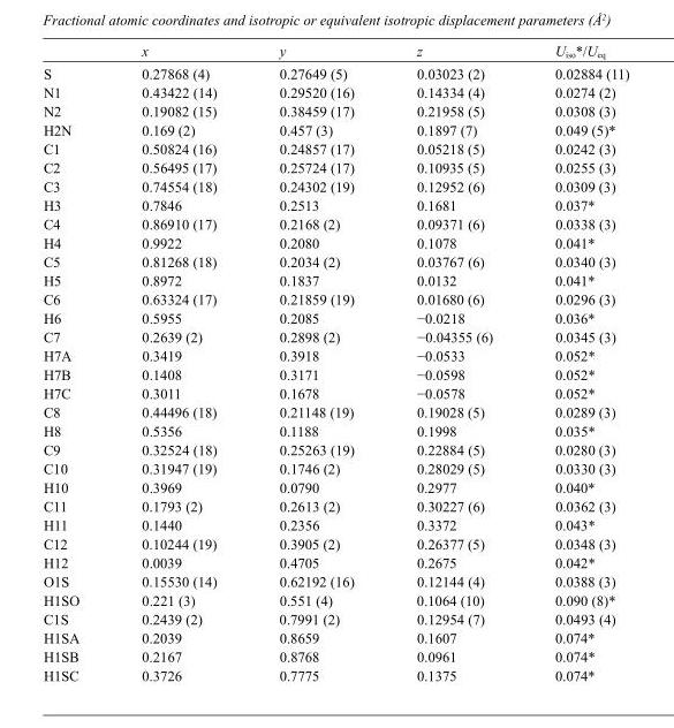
<table><thead><tr><td></td><td>x</td><td>y</td><td>z</td><td>U<sub>iso</sub>*/U<sub>eq</sub></td></tr></thead><tbody><tr><td>S</td><td>0.27868 (4)</td><td>0.27649 (5)</td><td>0.03023 (2)</td><td>0.02884 (11)</td></tr><tr><td>N1</td><td>0.43422 (14)</td><td>0.29520 (16)</td><td>0.14334 (4)</td><td>0.0274 (2)</td></tr><tr><td>N2</td><td>0.19082 (15)</td><td>0.38459 (17)</td><td>0.21958 (5)</td><td>0.0308 (3)</td></tr><tr><td>H2N</td><td>0.169 (2)</td><td>0.457 (3)</td><td>0.1897 (7)</td><td>0.049 (5)*</td></tr><tr><td>C1</td><td>0.50824 (16)</td><td>0.24857 (17)</td><td>0.05218 (5)</td><td>0.0242 (3)</td></tr><tr><td>C2</td><td>0.56495 (17)</td><td>0.25724 (17)</td><td>0.10935 (5)</td><td>0.0255 (3)</td></tr><tr><td>C3</td><td>0.74554 (18)</td><td>0.24302 (19)</td><td>0.12952 (6)</td><td>0.0309 (3)</td></tr><tr><td>H3</td><td>0.7846</td><td>0.2513</td><td>0.1681</td><td>0.037*</td></tr><tr><td>C4</td><td>0.86910 (17)</td><td>0.2168 (2)</td><td>0.09371 (6)</td><td>0.0338 (3)</td></tr><tr><td>H4</td><td>0.9922</td><td>0.2080</td><td>0.1078</td><td>0.041*</td></tr><tr><td>C5</td><td>0.81268 (18)</td><td>0.2034 (2)</td><td>0.03767 (6)</td><td>0.0340 (3)</td></tr><tr><td>H5</td><td>0.8972</td><td>0.1837</td><td>0.0132</td><td>0.041*</td></tr><tr><td>C6</td><td>0.63324 (17)</td><td>0.21859 (19)</td><td>0.01680 (6)</td><td>0.0296 (3)</td></tr><tr><td>H6</td><td>0.5955</td><td>0.2085</td><td>−0.0218</td><td>0.036*</td></tr><tr><td>C7</td><td>0.2639 (2)</td><td>0.2898 (2)</td><td>−0.04355 (6)</td><td>0.0345 (3)</td></tr><tr><td>H7A</td><td>0.3419</td><td>0.3918</td><td>−0.0533</td><td>0.052*</td></tr><tr><td>H7B</td><td>0.1408</td><td>0.3171</td><td>−0.0598</td><td>0.052*</td></tr><tr><td>H7C</td><td>0.3011</td><td>0.1678</td><td>−0.0578</td><td>0.052*</td></tr><tr><td>C8</td><td>0.44496 (18)</td><td>0.21148 (19)</td><td>0.19028 (5)</td><td>0.0289 (3)</td></tr><tr><td>H8</td><td>0.5356</td><td>0.1188</td><td>0.1998</td><td>0.035*</td></tr><tr><td>C9</td><td>0.32524 (18)</td><td>0.25263 (19)</td><td>0.22884 (5)</td><td>0.0280 (3)</td></tr><tr><td>C10</td><td>0.31947 (19)</td><td>0.1746 (2)</td><td>0.28029 (5)</td><td>0.0330 (3)</td></tr><tr><td>H10</td><td>0.3969</td><td>0.0790</td><td>0.2977</td><td>0.040*</td></tr><tr><td>C11</td><td>0.1793 (2)</td><td>0.2613 (2)</td><td>0.30227 (6)</td><td>0.0362 (3)</td></tr><tr><td>H11</td><td>0.1440</td><td>0.2356</td><td>0.3372</td><td>0.043*</td></tr><tr><td>C12</td><td>0.10244 (19)</td><td>0.3905 (2)</td><td>0.26377 (5)</td><td>0.0348 (3)</td></tr><tr><td>H12</td><td>0.0039</td><td>0.4705</td><td>0.2675</td><td>0.042*</td></tr><tr><td>O1S</td><td>0.15530 (14)</td><td>0.62192 (16)</td><td>0.12144 (4)</td><td>0.0388 (3)</td></tr><tr><td>H1SO</td><td>0.221 (3)</td><td>0.551 (4)</td><td>0.1064 (10)</td><td>0.090 (8)*</td></tr><tr><td>C1S</td><td>0.2439 (2)</td><td>0.7991 (2)</td><td>0.12954 (7)</td><td>0.0493 (4)</td></tr><tr><td>H1SA</td><td>0.2039</td><td>0.8659</td><td>0.1607</td><td>0.074*</td></tr><tr><td>H1SB</td><td>0.2167</td><td>0.8768</td><td>0.0961</td><td>0.074*</td></tr><tr><td>H1SC</td><td>0.3726</td><td>0.7775</td><td>0.1375</td><td>0.074*</td></tr></tbody></table>